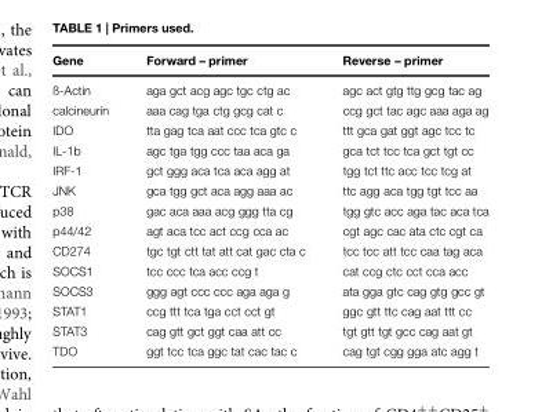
<table><thead><tr><td>Gene</td><td>Forward – primer</td><td>Reverse – primer</td></tr></thead><tbody><tr><td>ß-Actin</td><td>aga gct acg agc tgc ctg ac</td><td>agc act gtg ttg gcg tac ag</td></tr><tr><td>calcineurin</td><td>aaa cag tga ctg gcg cat c</td><td>ccg gct tac agc aaa aga ag</td></tr><tr><td>IDO</td><td>tta gag tca aat ccc tca gtc c</td><td>ttt gca gat ggt agc tcc tc</td></tr><tr><td>IL-1b</td><td>agc tga tgg ccc taa aca ga</td><td>gca tct tcc tca gct tgt cc</td></tr><tr><td>IRF-1</td><td>gct ggg aca tca aca agg at</td><td>tgg tct ttc acc tcc tcg at</td></tr><tr><td>JNK</td><td>gca tgg gct aca agg aaa ac</td><td>ttc agg aca tgg tgt tcc aa</td></tr><tr><td>p38</td><td>gac aca aaa acg ggg tta cg</td><td>tgg gtc acc aga tac aca tca</td></tr><tr><td>p44/42</td><td>agt aca tcc act ccg cca ac</td><td>cgt agc cac ata ctc cgt ca</td></tr><tr><td>CD274</td><td>tgc tgt ctt tat att cat gac cta c</td><td>tcc tcc att tcc caa tag aca</td></tr><tr><td>SOCS1</td><td>tcc ccc tca acc ccg t</td><td>cat ccg ctc cct cca acc</td></tr><tr><td>SOCS3</td><td>ggg agt ccc ccc aga aga g</td><td>ata gga gtc cag gtg gcc gt</td></tr><tr><td>STAT1</td><td>ccg ttt tca tga cct cct gt</td><td>ggc gtt ttc cag aat ttt cc</td></tr><tr><td>STAT3</td><td>cag gtt gct ggt caa att cc</td><td>tgt gtt tgt gcc cag aat gt</td></tr><tr><td>TDO</td><td>ggt tcc tca ggc tat cac tac c</td><td>cag tgt cgg gga atc agg t</td></tr></tbody></table>